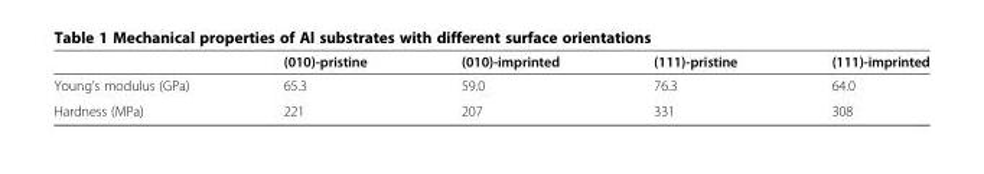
<table><thead><tr><td></td><td>(010)-pristine</td><td>(010)-imprinted</td><td>(111)-pristine</td><td>(111)-imprinted</td></tr></thead><tbody><tr><td>Young’s modulus (GPa)</td><td>65.3</td><td>59.0</td><td>76.3</td><td>64.0</td></tr><tr><td>Hardness (MPa)</td><td>221</td><td>207</td><td>331</td><td>308</td></tr></tbody></table>